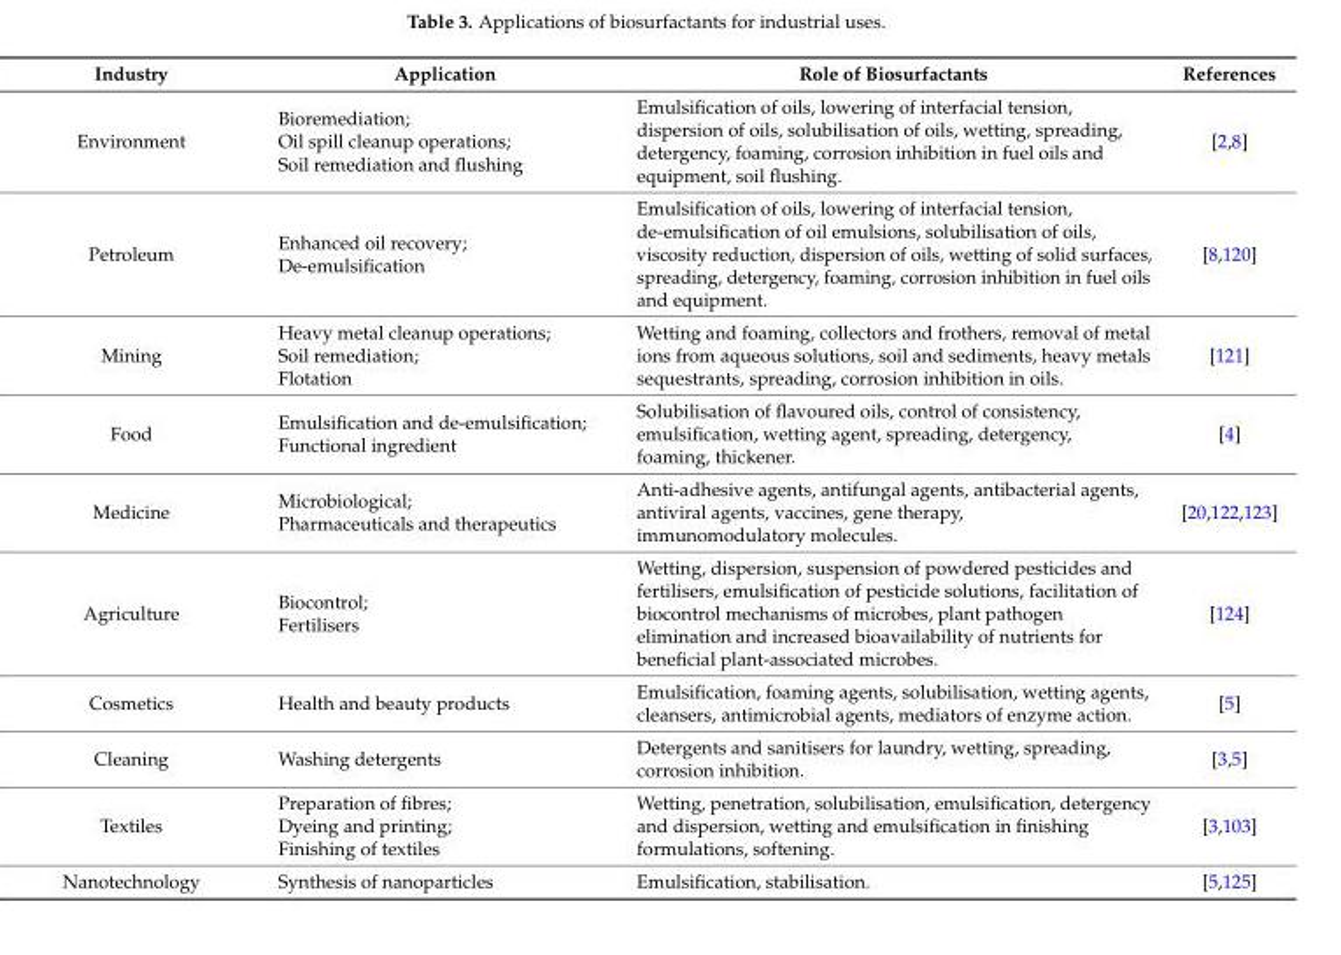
<table><thead><tr><td>Industry</td><td>Application</td><td>Role of Biosurfactants</td><td>References</td></tr></thead><tbody><tr><td>Environment</td><td>Bioremediation; Oil spill cleanup operations; Soil remediation and flushing</td><td>Emulsification of oils, lowering of interfacial tension, dispersion of oils, solubilisation of oils, wetting, spreading, detergency, foaming, corrosion inhibition in fuel oils and equipment, soil flushing.</td><td>[2,8]</td></tr><tr><td>Petroleum</td><td>Enhanced oil recovery; De-emulsification</td><td>Emulsification of oils, lowering of interfacial tension, de-emulsification of oil emulsions, solubilisation of oils, viscosity reduction, dispersion of oils, wetting of solid surfaces, spreading, detergency, foaming, corrosion inhibition in fuel oils and equipment.</td><td>[8,120]</td></tr><tr><td>Mining</td><td>Heavy metal cleanup operations; Soil remediation; Flotation</td><td>Wetting and foaming, collectors and frothers, removal of metal ions from aqueous solutions, soil and sediments, heavy metals sequestrants, spreading, corrosion inhibition in oils.</td><td>[121]</td></tr><tr><td>Food</td><td>Emulsification and de-emulsification; Functional ingredient</td><td>Solubilisation of flavoured oils, control of consistency, emulsification, wetting agent, spreading, detergency, foaming, thickener.</td><td>[4]</td></tr><tr><td>Medicine</td><td>Microbiological; Pharmaceuticals and therapeutics</td><td>Anti-adhesive agents, antifungal agents, antibacterial agents, antiviral agents, vaccines, gene therapy, immunomodulatory molecules.</td><td>[20,122,123]</td></tr><tr><td>Agriculture</td><td>Biocontrol; Fertilisers</td><td>Wetting, dispersion, suspension of powdered pesticides and fertilisers, emulsification of pesticide solutions, facilitation of biocontrol mechanisms of microbes, plant pathogen elimination and increased bioavailability of nutrients for beneficial plant-associated microbes.</td><td>[124]</td></tr><tr><td>Cosmetics</td><td>Health and beauty products</td><td>Emulsification, foaming agents, solubilisation, wetting agents, cleansers, antimicrobial agents, mediators of enzyme action.</td><td>[5]</td></tr><tr><td>Cleaning</td><td>Washing detergents</td><td>Detergents and sanitisers for laundry, wetting, spreading, corrosion inhibition.</td><td>[3,5]</td></tr><tr><td>Textiles</td><td>Preparation of fibres; Dyeing and printing; Finishing of textiles</td><td>Wetting, penetration, solubilisation, emulsification, detergency and dispersion, wetting and emulsification in finishing formulations, softening.</td><td>[3,103]</td></tr><tr><td>Nanotechnology</td><td>Synthesis of nanoparticles</td><td>Emulsification, stabilisation.</td><td>[5,125]</td></tr></tbody></table>